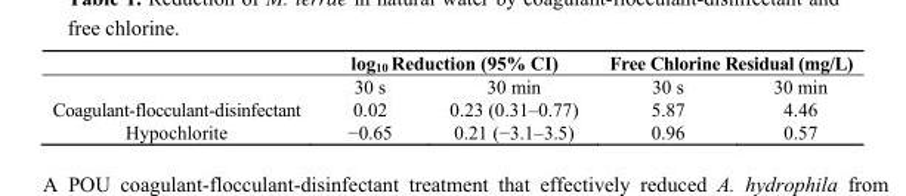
<table><thead><tr><td rowspan="2"></td><td colspan="2">log<sub>10</sub> Reduction (95% CI)</td><td colspan="2">Free Chlorine Residual (mg/L)</td></tr><tr><td>30 s</td><td>30 min</td><td>30 s</td><td>30 min</td></tr></thead><tbody><tr><td>Coagulant-flocculant-disinfectant</td><td>0.02</td><td>0.23 (0.31–0.77)</td><td>5.87</td><td>4.46</td></tr><tr><td>Hypochlorite</td><td>−0.65</td><td>0.21 (−3.1–3.5)</td><td>0.96</td><td>0.57</td></tr></tbody></table>